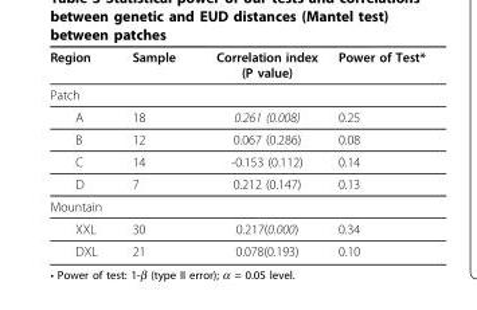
<table><thead><tr><td>Region</td><td>Sample</td><td>Correlation index (P value)</td><td>Power of Test*</td></tr></thead><tbody><tr><td colspan="4">Patch</td></tr><tr><td>A</td><td>18</td><td>0.261 (0.008)</td><td>0.25</td></tr><tr><td>B</td><td>12</td><td>0.067 (0.286)</td><td>0.08</td></tr><tr><td>C</td><td>14</td><td>-0.153 (0.112)</td><td>0.14</td></tr><tr><td>D</td><td>7</td><td>0.212 (0.147)</td><td>0.13</td></tr><tr><td colspan="4">Mountain</td></tr><tr><td>XXL</td><td>30</td><td>0.217(0.000)</td><td>0.34</td></tr><tr><td>DXL</td><td>21</td><td>0.078(0.193)</td><td>0.10</td></tr></tbody></table>